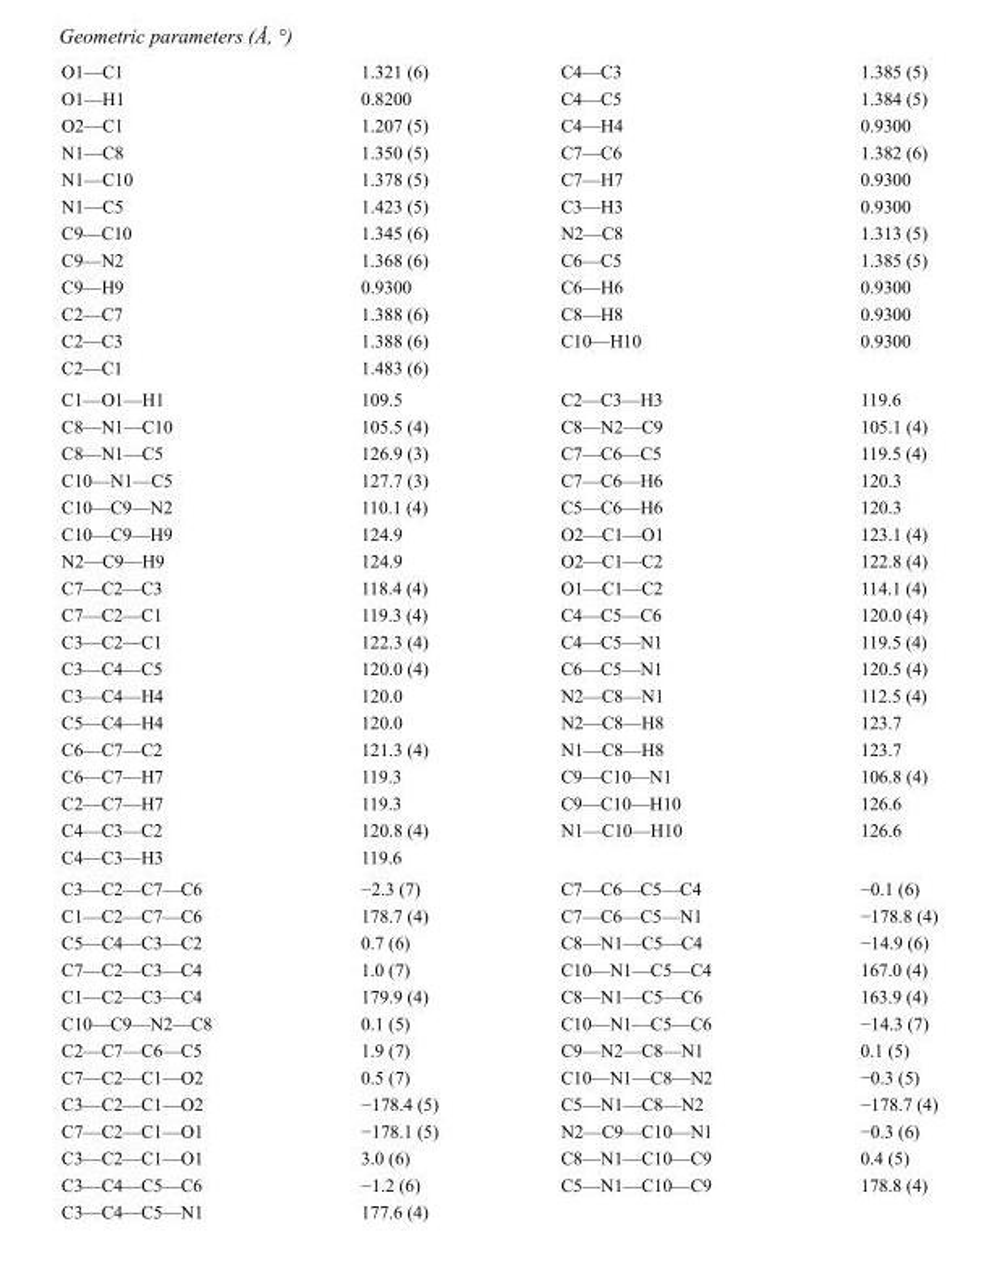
<table><tbody><tr><td>O1—C1</td><td>1.321 (6)</td><td>C4—C3</td><td>1.385 (5)</td></tr><tr><td>O1—H1</td><td>0.8200</td><td>C4—C5</td><td>1.384 (5)</td></tr><tr><td>O2—C1</td><td>1.207 (5)</td><td>C4—H4</td><td>0.9300</td></tr><tr><td>N1—C8</td><td>1.350 (5)</td><td>C7—C6</td><td>1.382 (6)</td></tr><tr><td>N1—C10</td><td>1.378 (5)</td><td>C7—H7</td><td>0.9300</td></tr><tr><td>N1—C5</td><td>1.423 (5)</td><td>C3—H3</td><td>0.9300</td></tr><tr><td>C9—C10</td><td>1.345 (6)</td><td>N2—C8</td><td>1.313 (5)</td></tr><tr><td>C9—N2</td><td>1.368 (6)</td><td>C6—C5</td><td>1.385 (5)</td></tr><tr><td>C9—H9</td><td>0.9300</td><td>C6—H6</td><td>0.9300</td></tr><tr><td>C2—C7</td><td>1.388 (6)</td><td>C8—H8</td><td>0.9300</td></tr><tr><td>C2—C3</td><td>1.388 (6)</td><td>C10—H10</td><td>0.9300</td></tr><tr><td>C2—C1</td><td>1.483 (6)</td><td></td><td></td></tr><tr><td>C1—O1—H1</td><td>109.5</td><td>C2—C3—H3</td><td>119.6</td></tr><tr><td>C8—N1—C10</td><td>105.5 (4)</td><td>C8—N2—C9</td><td>105.1 (4)</td></tr><tr><td>C8—N1—C5</td><td>126.9 (3)</td><td>C7—C6—C5</td><td>119.5 (4)</td></tr><tr><td>C10—N1—C5</td><td>127.7 (3)</td><td>C7—C6—H6</td><td>120.3</td></tr><tr><td>C10—C9—N2</td><td>110.1 (4)</td><td>C5—C6—H6</td><td>120.3</td></tr><tr><td>C10—C9—H9</td><td>124.9</td><td>O2—C1—O1</td><td>123.1 (4)</td></tr><tr><td>N2—C9—H9</td><td>124.9</td><td>O2—C1—C2</td><td>122.8 (4)</td></tr><tr><td>C7—C2—C3</td><td>118.4 (4)</td><td>O1—C1—C2</td><td>114.1 (4)</td></tr><tr><td>C7—C2—C1</td><td>119.3 (4)</td><td>C4—C5—C6</td><td>120.0 (4)</td></tr><tr><td>C3—C2—C1</td><td>122.3 (4)</td><td>C4—C5—N1</td><td>119.5 (4)</td></tr><tr><td>C3—C4—C5</td><td>120.0 (4)</td><td>C6—C5—N1</td><td>120.5 (4)</td></tr><tr><td>C3—C4—H4</td><td>120.0</td><td>N2—C8—N1</td><td>112.5 (4)</td></tr><tr><td>C5—C4—H4</td><td>120.0</td><td>N2—C8—H8</td><td>123.7</td></tr><tr><td>C6—C7—C2</td><td>121.3 (4)</td><td>N1—C8—H8</td><td>123.7</td></tr><tr><td>C6—C7—H7</td><td>119.3</td><td>C9—C10—N1</td><td>106.8 (4)</td></tr><tr><td>C2—C7—H7</td><td>119.3</td><td>C9—C10—H10</td><td>126.6</td></tr><tr><td>C4—C3—C2</td><td>120.8 (4)</td><td>N1—C10—H10</td><td>126.6</td></tr><tr><td>C4—C3—H3</td><td>119.6</td><td></td><td></td></tr><tr><td>C3—C2—C7—C6</td><td>−2.3 (7)</td><td>C7—C6—C5—C4</td><td>−0.1 (6)</td></tr><tr><td>C1—C2—C7—C6</td><td>178.7 (4)</td><td>C7—C6—C5—N1</td><td>−178.8 (4)</td></tr><tr><td>C5—C4—C3—C2</td><td>0.7 (6)</td><td>C8—N1—C5—C4</td><td>−14.9 (6)</td></tr><tr><td>C7—C2—C3—C4</td><td>1.0 (7)</td><td>C10—N1—C5—C4</td><td>167.0 (4)</td></tr><tr><td>C1—C2—C3—C4</td><td>179.9 (4)</td><td>C8—N1—C5—C6</td><td>163.9 (4)</td></tr><tr><td>C10—C9—N2—C8</td><td>0.1 (5)</td><td>C10—N1—C5—C6</td><td>−14.3 (7)</td></tr><tr><td>C2—C7—C6—C5</td><td>1.9 (7)</td><td>C9—N2—C8—N1</td><td>0.1 (5)</td></tr><tr><td>C7—C2—C1—O2</td><td>0.5 (7)</td><td>C10—N1—C8—N2</td><td>−0.3 (5)</td></tr><tr><td>C3—C2—C1—O2</td><td>−178.4 (5)</td><td>C5—N1—C8—N2</td><td>−178.7 (4)</td></tr><tr><td>C7—C2—C1—O1</td><td>−178.1 (5)</td><td>N2—C9—C10—N1</td><td>−0.3 (6)</td></tr><tr><td>C3—C2—C1—O1</td><td>3.0 (6)</td><td>C8—N1—C10—C9</td><td>0.4 (5)</td></tr><tr><td>C3—C4—C5—C6</td><td>−1.2 (6)</td><td>C5—N1—C10—C9</td><td>178.8 (4)</td></tr><tr><td>C3—C4—C5—N1</td><td>177.6 (4)</td><td></td><td></td></tr></tbody></table>